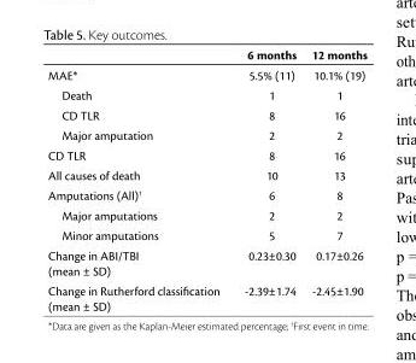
<table><thead><tr><td></td><td>6 months</td><td>12 months</td></tr></thead><tbody><tr><td>MAE*</td><td>5.5% (11)</td><td>10.1% (19)</td></tr><tr><td>Death</td><td>1</td><td>1</td></tr><tr><td>CD TLR</td><td>8</td><td>16</td></tr><tr><td>Major amputation</td><td>2</td><td>2</td></tr><tr><td>CD TLR</td><td>8</td><td>16</td></tr><tr><td>All causes of death</td><td>10</td><td>13</td></tr><tr><td>Amputations (All)<sup>†</sup></td><td>6</td><td>8</td></tr><tr><td>Major amputations</td><td>2</td><td>2</td></tr><tr><td>Minor amputations</td><td>5</td><td>7</td></tr><tr><td>Change in ABI/TBI (mean ± SD)</td><td>0.23±0.30</td><td>0.17±0.26</td></tr><tr><td>Change in Rutherford classification (mean ± SD)</td><td>-2.39±1.74</td><td>-2.45±1.90</td></tr></tbody></table>